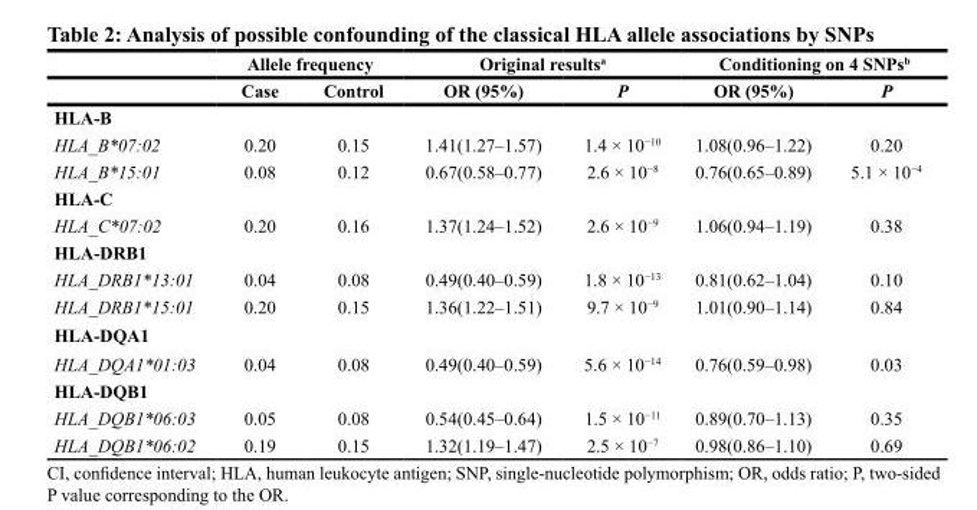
<table><thead><tr><td rowspan="2"></td><td colspan="2">Allele frequency</td><td colspan="2">original results<sup>a</sup></td><td colspan="2">conditioning on 4 snPs<sup>b</sup></td></tr><tr><td>case</td><td>control</td><td>or (95%)</td><td>P</td><td>or (95%)</td><td>P</td></tr></thead><tbody><tr><td colspan="7">HlA-b</td></tr><tr><td>HLA_B*07:02</td><td>0.20</td><td>0.15</td><td>1.41(1.27–1.57)</td><td>1.4 × 10<sup>−10</sup></td><td>1.08(0.96–1.22)</td><td>0.20</td></tr><tr><td>HLA_B*15:01</td><td>0.08</td><td>0.12</td><td>0.67(0.58–0.77)</td><td>2.6 × 10<sup>−8</sup></td><td>0.76(0.65–0.89)</td><td>5.1 × 10<sup>−4</sup></td></tr><tr><td colspan="7">HlA-c</td></tr><tr><td>HLA_C*07:02</td><td>0.20</td><td>0.16</td><td>1.37(1.24–1.52)</td><td>2.6 × 10<sup>−9</sup></td><td>1.06(0.94–1.19)</td><td>0.38</td></tr><tr><td colspan="7">HlA-drb1</td></tr><tr><td>HLA_DRB1*13:01</td><td>0.04</td><td>0.08</td><td>0.49(0.40–0.59)</td><td>1.8 × 10<sup>−13</sup></td><td>0.81(0.62–1.04)</td><td>0.10</td></tr><tr><td>HLA_DRB1*15:01</td><td>0.20</td><td>0.15</td><td>1.36(1.22–1.51)</td><td>9.7 × 10<sup>−9</sup></td><td>1.01(0.90–1.14)</td><td>0.84</td></tr><tr><td colspan="7">HlA-dQA1</td></tr><tr><td>HLA_DQA1*01:03</td><td>0.04</td><td>0.08</td><td>0.49(0.40–0.59)</td><td>5.6 × 10<sup>−14</sup></td><td>0.76(0.59–0.98)</td><td>0.03</td></tr><tr><td colspan="7">HlA-dQb1</td></tr><tr><td>HLA_DQB1*06:03</td><td>0.05</td><td>0.08</td><td>0.54(0.45–0.64)</td><td>1.5 × 10<sup>−11</sup></td><td>0.89(0.70–1.13)</td><td>0.35</td></tr><tr><td>HLA_DQB1*06:02</td><td>0.19</td><td>0.15</td><td>1.32(1.19–1.47)</td><td>2.5 × 10<sup>−7</sup></td><td>0.98(0.86–1.10)</td><td>0.69</td></tr></tbody></table>